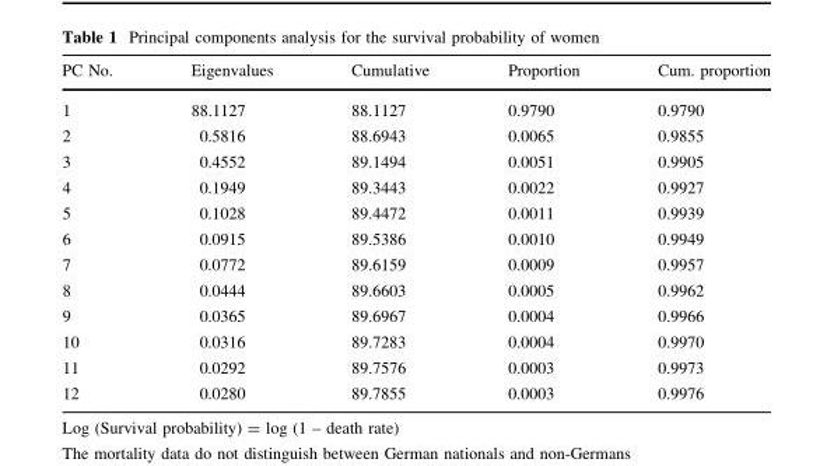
<table><thead><tr><td>PC No.</td><td>Eigenvalues</td><td>Cumulative</td><td>Proportion</td><td>Cum. proportion</td></tr></thead><tbody><tr><td>1</td><td>88.1127</td><td>88.1127</td><td>0.9790</td><td>0.9790</td></tr><tr><td>2</td><td>0.5816</td><td>88.6943</td><td>0.0065</td><td>0.9855</td></tr><tr><td>3</td><td>0.4552</td><td>89.1494</td><td>0.0051</td><td>0.9905</td></tr><tr><td>4</td><td>0.1949</td><td>89.3443</td><td>0.0022</td><td>0.9927</td></tr><tr><td>5</td><td>0.1028</td><td>89.4472</td><td>0.0011</td><td>0.9939</td></tr><tr><td>6</td><td>0.0915</td><td>89.5386</td><td>0.0010</td><td>0.9949</td></tr><tr><td>7</td><td>0.0772</td><td>89.6159</td><td>0.0009</td><td>0.9957</td></tr><tr><td>8</td><td>0.0444</td><td>89.6603</td><td>0.0005</td><td>0.9962</td></tr><tr><td>9</td><td>0.0365</td><td>89.6967</td><td>0.0004</td><td>0.9966</td></tr><tr><td>10</td><td>0.0316</td><td>89.7283</td><td>0.0004</td><td>0.9970</td></tr><tr><td>11</td><td>0.0292</td><td>89.7576</td><td>0.0003</td><td>0.9973</td></tr><tr><td>12</td><td>0.0280</td><td>89.7855</td><td>0.0003</td><td>0.9976</td></tr></tbody></table>